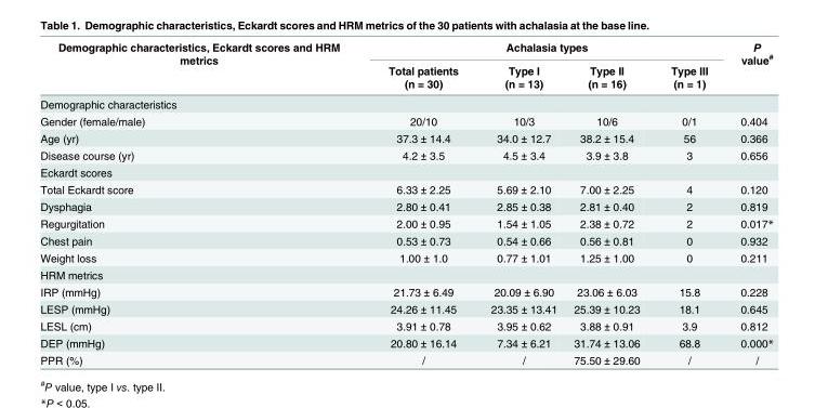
<table><thead><tr><td rowspan="2">Demographic characteristics, Eckardt scores and HRM metrics</td><td colspan="4">Achalasia types</td><td rowspan="2">P value<sup>#</sup></td></tr><tr><td>Total patients (n = 30)</td><td>Type I (n = 13)</td><td>Type II (n = 16)</td><td>Type III (n = 1)</td></tr></thead><tbody><tr><td colspan="6">Demographic characteristics</td></tr><tr><td>Gender (female/male)</td><td>20/10</td><td>10/3</td><td>10/6</td><td>0/1</td><td>0.404</td></tr><tr><td>Age (yr)</td><td>37.3 ± 14.4</td><td>34.0 ± 12.7</td><td>38.2 ± 15.4</td><td>56</td><td>0.366</td></tr><tr><td>Disease course (yr)</td><td>4.2 ± 3.5</td><td>4.5 ± 3.4</td><td>3.9 ± 3.8</td><td>3</td><td>0.656</td></tr><tr><td colspan="6">Eckardt scores</td></tr><tr><td>Total Eckardt score</td><td>6.33 ± 2.25</td><td>5.69 ± 2.10</td><td>7.00 ± 2.25</td><td>4</td><td>0.120</td></tr><tr><td>Dysphagia</td><td>2.80 ± 0.41</td><td>2.85 ± 0.38</td><td>2.81 ± 0.40</td><td>2</td><td>0.819</td></tr><tr><td>Regurgitation</td><td>2.00 ± 0.95</td><td>1.54 ± 1.05</td><td>2.38 ± 0.72</td><td>2</td><td>0.017*</td></tr><tr><td>Chest pain</td><td>0.53 ± 0.73</td><td>0.54 ± 0.66</td><td>0.56 ± 0.81</td><td>0</td><td>0.932</td></tr><tr><td>Weight loss</td><td>1.00 ± 1.0</td><td>0.77 ± 1.01</td><td>1.25 ± 1.00</td><td>0</td><td>0.211</td></tr><tr><td colspan="6">HRM metrics</td></tr><tr><td>IRP (mmHg)</td><td>21.73 ± 6.49</td><td>20.09 ± 6.90</td><td>23.06 ± 6.03</td><td>15.8</td><td>0.228</td></tr><tr><td>LESP (mmHg)</td><td>24.26 ± 11.45</td><td>23.35 ± 13.41</td><td>25.39 ± 10.23</td><td>18.1</td><td>0.645</td></tr><tr><td>LESL (cm)</td><td>3.91 ± 0.78</td><td>3.95 ± 0.62</td><td>3.88 ± 0.91</td><td>3.9</td><td>0.812</td></tr><tr><td>DEP (mmHg)</td><td>20.80 ± 16.14</td><td>7.34 ± 6.21</td><td>31.74 ± 13.06</td><td>68.8</td><td>0.000*</td></tr><tr><td>PPR (%)</td><td>/</td><td>/</td><td>75.50 ± 29.60</td><td>/</td><td>/</td></tr></tbody></table>